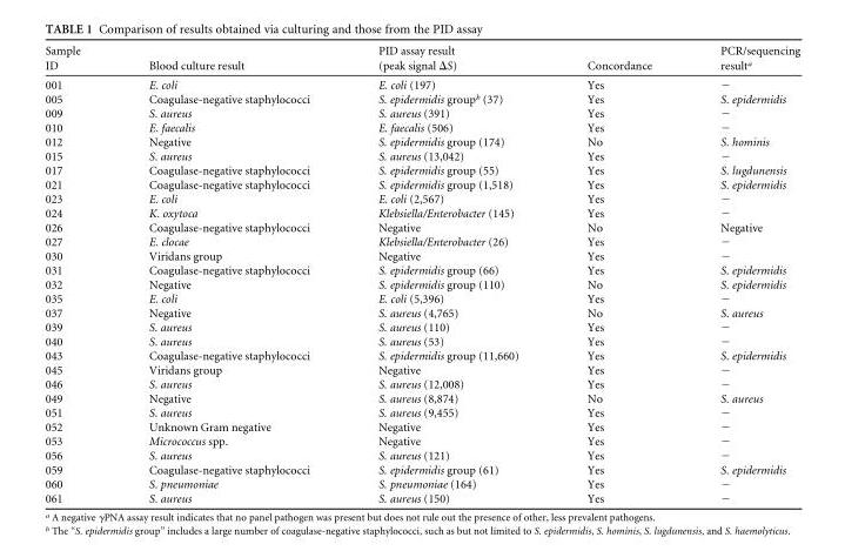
<table><thead><tr><td>Sample ID</td><td>Blood culture result</td><td>PID assay result (peak signal ΔS)</td><td>Concordance</td><td>PCR/sequencing result<sup>a</sup></td></tr></thead><tbody><tr><td>001</td><td>E. coli</td><td>E. coli (197)</td><td>Yes</td><td>−</td></tr><tr><td>005</td><td>Coagulase-negative staphylococci</td><td>S. epidermidis group<sup>b</sup> (37)</td><td>Yes</td><td>S. epidermidis</td></tr><tr><td>009</td><td>S. aureus</td><td>S. aureus (391)</td><td>Yes</td><td>−</td></tr><tr><td>010</td><td>E. faecalis</td><td>E. faecalis (506)</td><td>Yes</td><td>−</td></tr><tr><td>012</td><td>Negative</td><td>S. epidermidis group (174)</td><td>No</td><td>S. hominis</td></tr><tr><td>015</td><td>S. aureus</td><td>S. aureus (13,042)</td><td>Yes</td><td>−</td></tr><tr><td>017</td><td>Coagulase-negative staphylococci</td><td>S. epidermidis group (55)</td><td>Yes</td><td>S. lugdunensis</td></tr><tr><td>021</td><td>Coagulase-negative staphylococci</td><td>S. epidermidis group (1,518)</td><td>Yes</td><td>S. epidermidis</td></tr><tr><td>023</td><td>E. coli</td><td>E. coli (2,567)</td><td>Yes</td><td>−</td></tr><tr><td>024</td><td>K. oxytoca</td><td>Klebsiella/Enterobacter (145)</td><td>Yes</td><td>−</td></tr><tr><td>026</td><td>Coagulase-negative staphylococci</td><td>Negative</td><td>No</td><td>Negative</td></tr><tr><td>027</td><td>E. clocae</td><td>Klebsiella/Enterobacter (26)</td><td>Yes</td><td>−</td></tr><tr><td>030</td><td>Viridans group</td><td>Negative</td><td>Yes</td><td>−</td></tr><tr><td>031</td><td>Coagulase-negative staphylococci</td><td>S. epidermidis group (66)</td><td>Yes</td><td>S. epidermidis</td></tr><tr><td>032</td><td>Negative</td><td>S. epidermidis group (110)</td><td>No</td><td>S. epidermidis</td></tr><tr><td>035</td><td>E. coli</td><td>E. coli (5,396)</td><td>Yes</td><td>−</td></tr><tr><td>037</td><td>Negative</td><td>S. aureus (4,765)</td><td>No</td><td>S. aureus</td></tr><tr><td>039</td><td>S. aureus</td><td>S. aureus (110)</td><td>Yes</td><td>−</td></tr><tr><td>040</td><td>S. aureus</td><td>S. aureus (53)</td><td>Yes</td><td>−</td></tr><tr><td>043</td><td>Coagulase-negative staphylococci</td><td>S. epidermidis group (11,660)</td><td>Yes</td><td>S. epidermidis</td></tr><tr><td>045</td><td>Viridans group</td><td>Negative</td><td>Yes</td><td>−</td></tr><tr><td>046</td><td>S. aureus</td><td>S. aureus (12,008)</td><td>Yes</td><td>−</td></tr><tr><td>049</td><td>Negative</td><td>S. aureus (8,874)</td><td>No</td><td>S. aureus</td></tr><tr><td>051</td><td>S. aureus</td><td>S. aureus (9,455)</td><td>Yes</td><td>−</td></tr><tr><td>052</td><td>Unknown Gram negative</td><td>Negative</td><td>Yes</td><td>−</td></tr><tr><td>053</td><td>Micrococcus spp.</td><td>Negative</td><td>Yes</td><td>−</td></tr><tr><td>056</td><td>S. aureus</td><td>S. aureus (121)</td><td>Yes</td><td>−</td></tr><tr><td>059</td><td>Coagulase-negative staphylococci</td><td>S. epidermidis group (61)</td><td>Yes</td><td>S. epidermidis</td></tr><tr><td>060</td><td>S. pneumoniae</td><td>S. pneumoniae (164)</td><td>Yes</td><td>−</td></tr><tr><td>061</td><td>S. aureus</td><td>S. aureus (150)</td><td>Yes</td><td>−</td></tr></tbody></table>